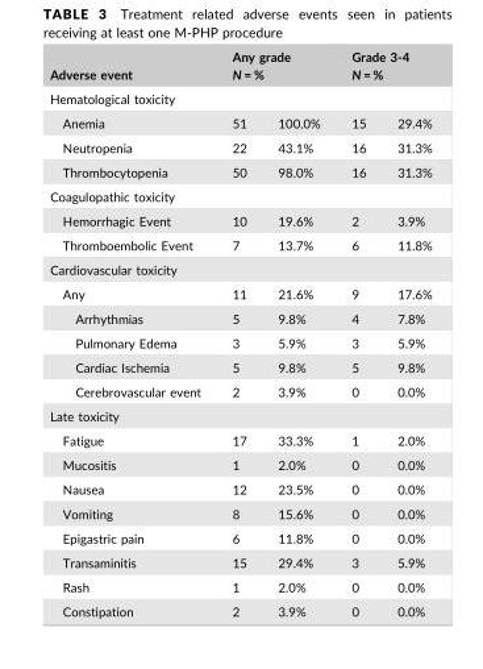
<table><thead><tr><td>Adverse event</td><td colspan="2">Any grade N = %</td><td colspan="2">Grade 3-4 N = %</td></tr><tr><td colspan="5">Hematological toxicity</td></tr><tr><td>Anemia</td><td>51</td><td>100.0%</td><td>15</td><td>29.4%</td></tr></thead><tbody><tr><td>Neutropenia</td><td>22</td><td>43.1%</td><td>16</td><td>31.3%</td></tr><tr><td>Thrombocytopenia</td><td>50</td><td>98.0%</td><td>16</td><td>31.3%</td></tr><tr><td colspan="5">Coagulopathic toxicity</td></tr><tr><td>Hemorrhagic Event</td><td>10</td><td>19.6%</td><td>2</td><td>3.9%</td></tr><tr><td>Thromboembolic Event</td><td>7</td><td>13.7%</td><td>6</td><td>11.8%</td></tr><tr><td colspan="5">Cardiovascular toxicity</td></tr><tr><td>Any</td><td>11</td><td>21.6%</td><td>9</td><td>17.6%</td></tr><tr><td>Arrhythmias</td><td>5</td><td>9.8%</td><td>4</td><td>7.8%</td></tr><tr><td>Pulmonary Edema</td><td>3</td><td>5.9%</td><td>3</td><td>5.9%</td></tr><tr><td>Cardiac Ischemia</td><td>5</td><td>9.8%</td><td>5</td><td>9.8%</td></tr><tr><td>Cerebrovascular event</td><td>2</td><td>3.9%</td><td>0</td><td>0.0%</td></tr><tr><td colspan="5">Late toxicity</td></tr><tr><td>Fatigue</td><td>17</td><td>33.3%</td><td>1</td><td>2.0%</td></tr><tr><td>Mucositis</td><td>1</td><td>2.0%</td><td>0</td><td>0.0%</td></tr><tr><td>Nausea</td><td>12</td><td>23.5%</td><td>0</td><td>0.0%</td></tr><tr><td>Vomiting</td><td>8</td><td>15.6%</td><td>0</td><td>0.0%</td></tr><tr><td>Epigastric pain</td><td>6</td><td>11.8%</td><td>0</td><td>0.0%</td></tr><tr><td>Transaminitis</td><td>15</td><td>29.4%</td><td>3</td><td>5.9%</td></tr><tr><td>Rash</td><td>1</td><td>2.0%</td><td>0</td><td>0.0%</td></tr><tr><td>Constipation</td><td>2</td><td>3.9%</td><td>0</td><td>0.0%</td></tr></tbody></table>